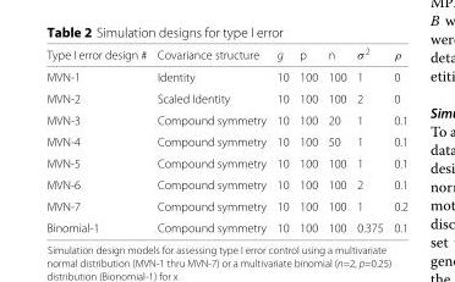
<table><thead><tr><td>Type I error design #</td><td>Covariance structure</td><td>g</td><td>p</td><td>n</td><td>σ <sup>2</sup></td><td>ρ</td></tr></thead><tbody><tr><td>MVN-1</td><td>Identity</td><td>10</td><td>100</td><td>100</td><td>1</td><td>0</td></tr><tr><td>MVN-2</td><td>Scaled Identity</td><td>10</td><td>100</td><td>100</td><td>2</td><td>0</td></tr><tr><td>MVN-3</td><td>Compound symmetry</td><td>10</td><td>100</td><td>20</td><td>1</td><td>0.1</td></tr><tr><td>MVN-4</td><td>Compound symmetry</td><td>10</td><td>100</td><td>50</td><td>1</td><td>0.1</td></tr><tr><td>MVN-5</td><td>Compound symmetry</td><td>10</td><td>100</td><td>100</td><td>1</td><td>0.1</td></tr><tr><td>MVN-6</td><td>Compound symmetry</td><td>10</td><td>100</td><td>100</td><td>2</td><td>0.1</td></tr><tr><td>MVN-7</td><td>Compound symmetry</td><td>10</td><td>100</td><td>100</td><td>1</td><td>0.2</td></tr><tr><td>Binomial-1</td><td>Compound symmetry</td><td>10</td><td>100</td><td>100</td><td>0.375</td><td>0.1</td></tr></tbody></table>